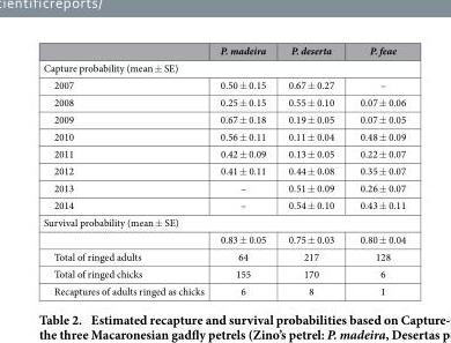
<table><thead><tr><td></td><td>P. madeira</td><td>P. deserta</td><td>P. feae</td></tr></thead><tbody><tr><td colspan="4">Capture probability (mean ± SE)</td></tr><tr><td>2007</td><td>0.50 ± 0.15</td><td>0.67 ± 0.27</td><td>–</td></tr><tr><td>2008</td><td>0.25 ± 0.15</td><td>0.55 ± 0.10</td><td>0.07 ± 0.06</td></tr><tr><td>2009</td><td>0.67 ± 0.18</td><td>0.19 ± 0.05</td><td>0.07 ± 0.05</td></tr><tr><td>2010</td><td>0.56 ± 0.11</td><td>0.11 ± 0.04</td><td>0.48 ± 0.09</td></tr><tr><td>2011</td><td>0.42 ± 0.09</td><td>0.13 ± 0.05</td><td>0.22 ± 0.07</td></tr><tr><td>2012</td><td>0.41 ± 0.11</td><td>0.44 ± 0.08</td><td>0.35 ± 0.07</td></tr><tr><td>2013</td><td>–</td><td>0.51 ± 0.09</td><td>0.26 ± 0.07</td></tr><tr><td>2014</td><td>–</td><td>0.54 ± 0.10</td><td>0.43 ± 0.11</td></tr><tr><td colspan="4">Survival probability (mean ± SE)</td></tr><tr><td></td><td>0.83 ± 0.05</td><td>0.75 ± 0.03</td><td>0.80 ± 0.04</td></tr><tr><td>Total of ringed adults</td><td>64</td><td>217</td><td>128</td></tr><tr><td>Total of ringed chicks</td><td>155</td><td>170</td><td>6</td></tr><tr><td>Recaptures of adults ringed as chicks</td><td>6</td><td>8</td><td>1</td></tr></tbody></table>